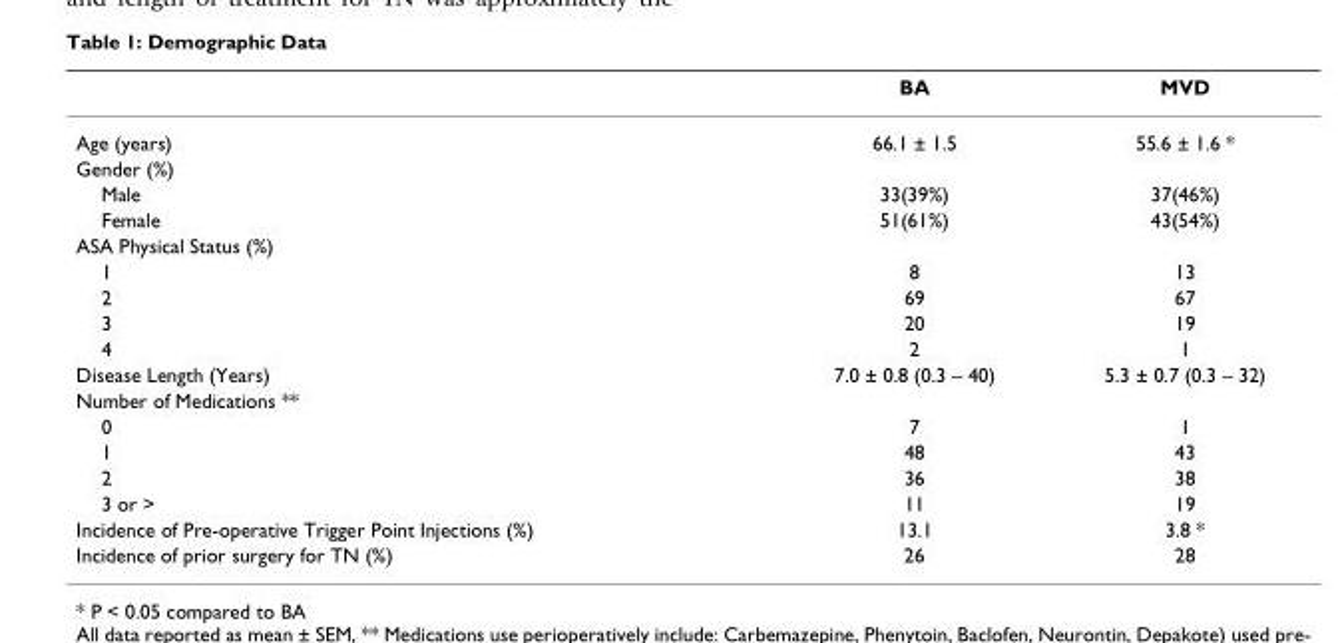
<table><thead><tr><td></td><td>BA</td><td>MVD</td></tr></thead><tbody><tr><td>Age (years)</td><td>66.1 ± 1.5</td><td>55.6 ± 1.6 *</td></tr><tr><td colspan="3">Gender (%)</td></tr><tr><td>Male</td><td>33(39%)</td><td>37(46%)</td></tr><tr><td>Female</td><td>51(61%)</td><td>43(54%)</td></tr><tr><td colspan="3">ASA Physical Status (%)</td></tr><tr><td>1</td><td>8</td><td>13</td></tr><tr><td>2</td><td>69</td><td>67</td></tr><tr><td>3</td><td>20</td><td>19</td></tr><tr><td>4</td><td>2</td><td>1</td></tr><tr><td>Disease Length (Years)</td><td>7.0 ± 0.8 (0.3 – 40)</td><td>5.3 ± 0.7 (0.3 – 32)</td></tr><tr><td colspan="3">Number of Medications **</td></tr><tr><td>0</td><td>7</td><td>1</td></tr><tr><td>1</td><td>48</td><td>43</td></tr><tr><td>2</td><td>36</td><td>38</td></tr><tr><td>3 or &gt;</td><td>11</td><td>19</td></tr><tr><td>Incidence of Pre-operative Trigger Point Injections (%)</td><td>13.1</td><td>3.8 *</td></tr><tr><td>Incidence of prior surgery for TN (%)</td><td>26</td><td>28</td></tr></tbody></table>